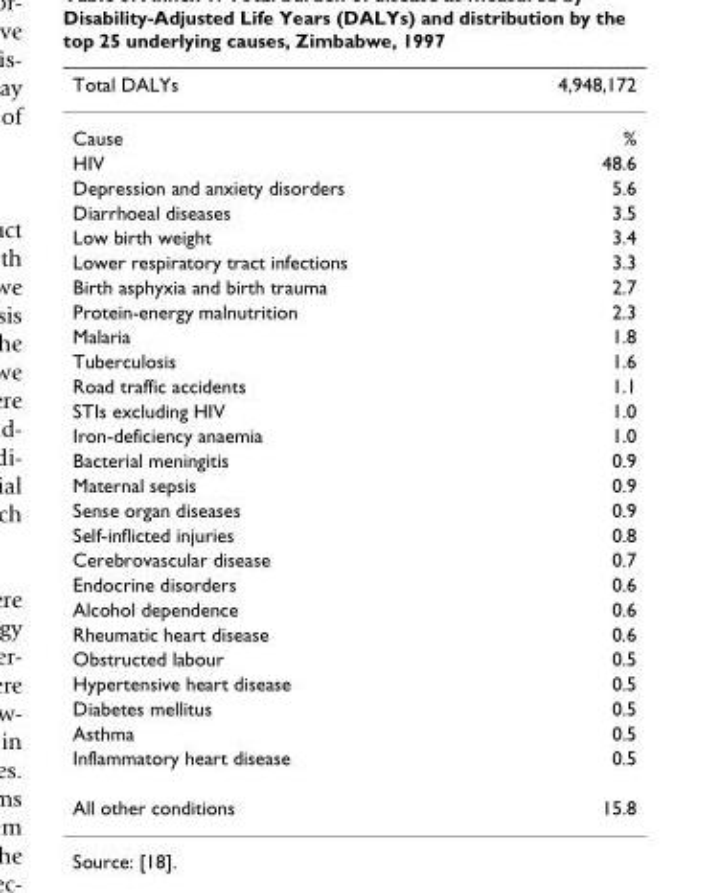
<table><thead><tr><td>Total DALYs</td><td>4,948,172</td></tr></thead><tbody><tr><td>Cause</td><td>%</td></tr><tr><td>HIV</td><td>48.6</td></tr><tr><td>Depression and anxiety disorders</td><td>5.6</td></tr><tr><td>Diarrhoeal diseases</td><td>3.5</td></tr><tr><td>Low birth weight</td><td>3.4</td></tr><tr><td>Lower respiratory tract infections</td><td>3.3</td></tr><tr><td>Birth asphyxia and birth trauma</td><td>2.7</td></tr><tr><td>Protein-energy malnutrition</td><td>2.3</td></tr><tr><td>Malaria</td><td>1.8</td></tr><tr><td>Tuberculosis</td><td>1.6</td></tr><tr><td>Road traffic accidents</td><td>1.1</td></tr><tr><td>STIs excluding HIV</td><td>1.0</td></tr><tr><td>Iron-deficiency anaemia</td><td>1.0</td></tr><tr><td>Bacterial meningitis</td><td>0.9</td></tr><tr><td>Maternal sepsis</td><td>0.9</td></tr><tr><td>Sense organ diseases</td><td>0.9</td></tr><tr><td>Self-inflicted injuries</td><td>0.8</td></tr><tr><td>Cerebrovascular disease</td><td>0.7</td></tr><tr><td>Endocrine disorders</td><td>0.6</td></tr><tr><td>Alcohol dependence</td><td>0.6</td></tr><tr><td>Rheumatic heart disease</td><td>0.6</td></tr><tr><td>Obstructed labour</td><td>0.5</td></tr><tr><td>Hypertensive heart disease</td><td>0.5</td></tr><tr><td>Diabetes mellitus</td><td>0.5</td></tr><tr><td>Asthma</td><td>0.5</td></tr><tr><td>Inflammatory heart disease</td><td>0.5</td></tr><tr><td>All other conditions</td><td>15.8</td></tr></tbody></table>